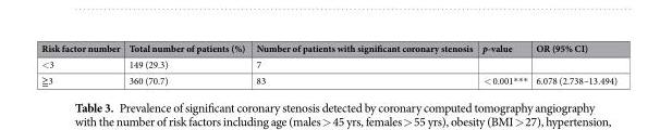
<table><thead><tr><td>Risk factor number</td><td>Total number of patients (%)</td><td>Number of patients with significant coronary stenosis</td><td>p-value</td><td>OR (95% CI)</td></tr></thead><tbody><tr><td>&lt;3</td><td>149 (29.3)</td><td>7</td><td></td><td></td></tr><tr><td>≧3</td><td>360 (70.7)</td><td>83</td><td>&lt; 0.001***</td><td>6.078 (2.738–13.494)</td></tr></tbody></table>